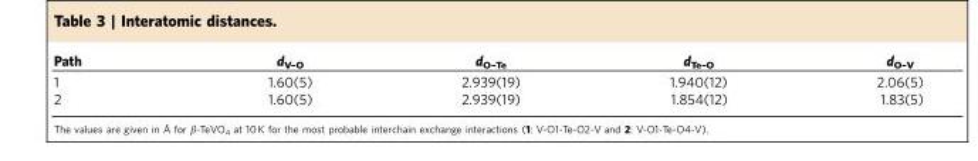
<table><thead><tr><td>Path</td><td>d<sub>V–O</sub></td><td>d<sub>O–Te</sub></td><td>d<sub>Te–O</sub></td><td>d<sub>O–V</sub></td></tr></thead><tbody><tr><td>1</td><td>1.60(5)</td><td>2.939(19)</td><td>1.940(12)</td><td>2.06(5)</td></tr><tr><td>2</td><td>1.60(5)</td><td>2.939(19)</td><td>1.854(12)</td><td>1.83(5)</td></tr></tbody></table>